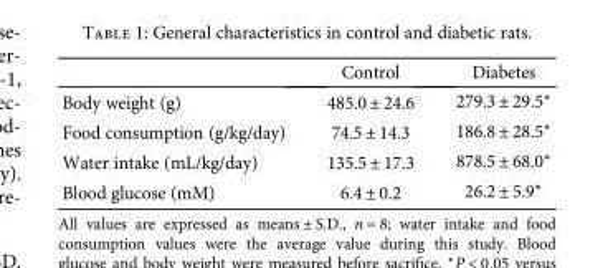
<table><thead><tr><td></td><td>Control</td><td>Diabetes</td></tr></thead><tbody><tr><td>Body weight (g)</td><td>485.0 ± 24.6</td><td>279.3 ± 29.5∗</td></tr><tr><td>Food consumption (g/kg/day)</td><td>74.5 ± 14.3</td><td>186.8 ± 28.5∗</td></tr><tr><td>Water intake (mL/kg/day)</td><td>135.5 ± 17.3</td><td>878.5 ± 68.0∗</td></tr><tr><td>Blood glucose (mM)</td><td>6.4 ± 0.2</td><td>26.2 ± 5.9∗</td></tr></tbody></table>